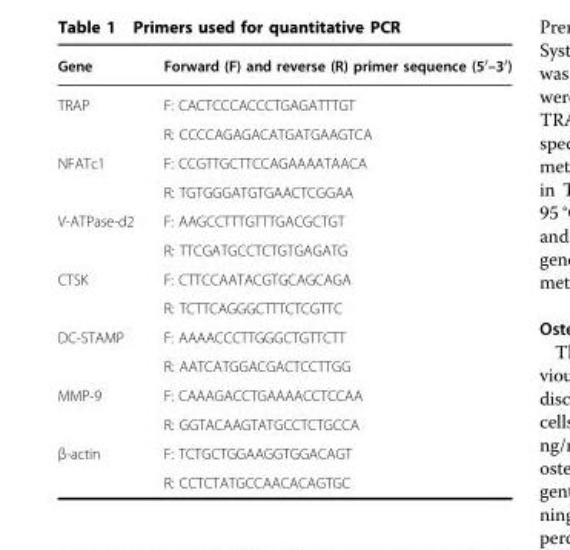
<table><thead><tr><td>Gene</td><td>Forward (F) and reverse (R) primer sequence (5′–3′)</td></tr></thead><tbody><tr><td rowspan="2">TRAP</td><td>F: CACTCCCACCCTGAGATTTGT</td></tr><tr><td>R: CCCCAGAGACATGATGAAGTCA</td></tr><tr><td rowspan="2">NFATc1</td><td>F: CCGTTGCTTCCAGAAAATAACA</td></tr><tr><td>R: TGTGGGATGTGAACTCGGAA</td></tr><tr><td rowspan="2">V-ATPase-d2</td><td>F: AAGCCTTTGTTTGACGCTGT</td></tr><tr><td>R: TTCGATGCCTCTGTGAGATG</td></tr><tr><td rowspan="2">CTSK</td><td>F: CTTCCAATACGTGCAGCAGA</td></tr><tr><td>R: TCTTCAGGGCTTTCTCGTTC</td></tr><tr><td rowspan="2">DC-STAMP</td><td>F: AAAACCCTTGGGCTGTTCTT</td></tr><tr><td>R: AATCATGGACGACTCCTTGG</td></tr><tr><td rowspan="2">MMP-9</td><td>F: CAAAGACCTGAAAACCTCCAA</td></tr><tr><td>R: GGTACAAGTATGCCTCTGCCA</td></tr><tr><td rowspan="2">β-actin</td><td>F: TCTGCTGGAAGGTGGACAGT</td></tr><tr><td>R: CCTCTATGCCAACACAGTGC</td></tr></tbody></table>